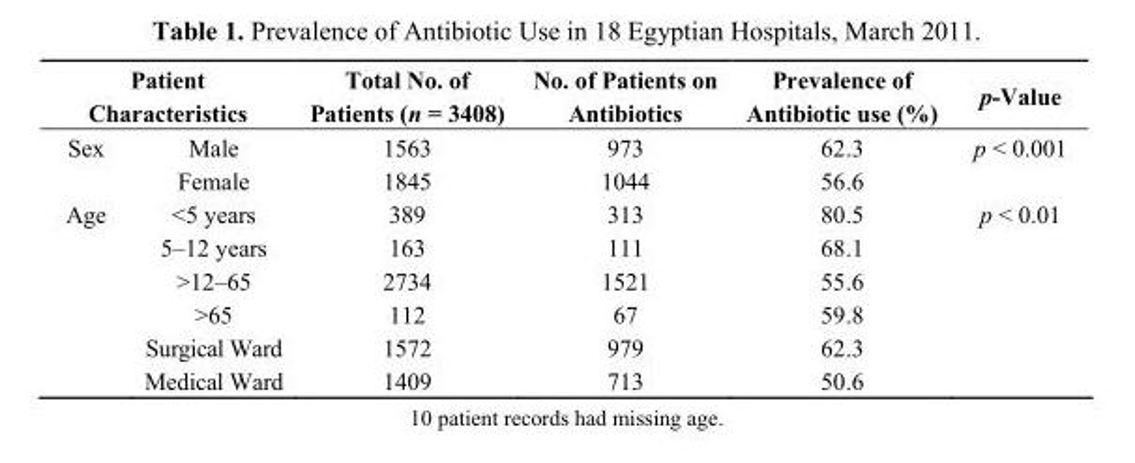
<table><thead><tr><td colspan="2">Patient Characteristics</td><td rowspan="2">Total No. of Patients (n = 3408) 1563</td><td rowspan="2">No. of Patients on Antibiotics 973</td><td rowspan="2">Prevalence of Antibiotic use (%) 62.3</td><td rowspan="2">p-Value p &lt; 0.001</td></tr><tr><td>Sex</td><td>Male</td></tr></thead><tbody><tr><td></td><td>Female</td><td>1845</td><td>1044</td><td>56.6</td><td></td></tr><tr><td rowspan="6">Age</td><td>&lt;5 years</td><td>389</td><td>313</td><td>80.5</td><td>p &lt; 0.01</td></tr><tr><td>5–12 years</td><td>163</td><td>111</td><td>68.1</td><td></td></tr><tr><td>&gt;12–65</td><td>2734</td><td>1521</td><td>55.6</td><td></td></tr><tr><td>&gt;65</td><td>112</td><td>67</td><td>59.8</td><td></td></tr><tr><td>Surgical Ward</td><td>1572</td><td>979</td><td>62.3</td><td></td></tr><tr><td>Medical Ward</td><td>1409</td><td>713</td><td>50.6</td><td></td></tr></tbody></table>